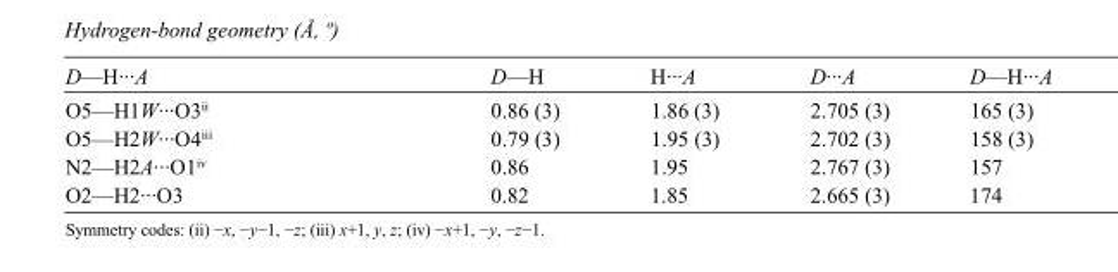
<table><tbody><tr><td>D—H···A</td><td>D—H</td><td>H···A</td><td>D···A</td><td>D—H···A</td></tr><tr><td>O5—H1W···O3<sup>ii</sup></td><td>0.86 (3)</td><td>1.86 (3)</td><td>2.705 (3)</td><td>165 (3)</td></tr><tr><td>O5—H2W···O4<sup>iii</sup></td><td>0.79 (3)</td><td>1.95 (3)</td><td>2.702 (3)</td><td>158 (3)</td></tr><tr><td>N2—H2A···O1<sup>iv</sup></td><td>0.86</td><td>1.95</td><td>2.767 (3)</td><td>157</td></tr><tr><td>O2—H2···O3</td><td>0.82</td><td>1.85</td><td>2.665 (3)</td><td>174</td></tr></tbody></table>